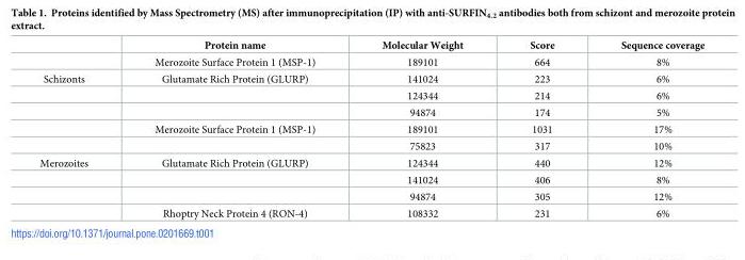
<table><thead><tr><td></td><td>Protein name</td><td>Molecular Weight</td><td>Score</td><td>Sequence coverage</td></tr></thead><tbody><tr><td></td><td>Merozoite Surface Protein 1 (MSP-1)</td><td>189101</td><td>664</td><td>8%</td></tr><tr><td rowspan="5">Schizonts</td><td>Glutamate Rich Protein (GLURP)</td><td>141024</td><td>223</td><td>6%</td></tr><tr><td></td><td>124344</td><td>214</td><td>6%</td></tr><tr><td></td><td>94874</td><td>174</td><td>5%</td></tr><tr><td>Merozoite Surface Protein 1 (MSP-1)</td><td>189101</td><td>1031</td><td>17%</td></tr><tr><td></td><td>75823</td><td>317</td><td>10%</td></tr><tr><td rowspan="4">Merozoites</td><td>Glutamate Rich Protein (GLURP)</td><td>124344</td><td>440</td><td>12%</td></tr><tr><td></td><td>141024</td><td>406</td><td>8%</td></tr><tr><td></td><td>94874</td><td>305</td><td>12%</td></tr><tr><td>Rhoptry Neck Protein 4 (RON-4)</td><td>108332</td><td>231</td><td>6%</td></tr></tbody></table>